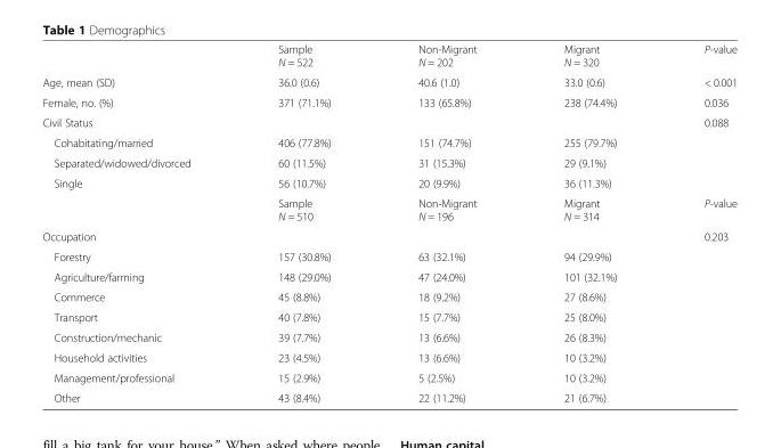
<table><thead><tr><td></td><td>Sample N = 522</td><td>Non-Migrant N = 202</td><td>Migrant N = 320</td><td>P-value</td></tr></thead><tbody><tr><td>Age, mean (SD)</td><td>36.0 (0.6)</td><td>40.6 (1.0)</td><td>33.0 (0.6)</td><td>&lt; 0.001</td></tr><tr><td>Female, no. (%)</td><td>371 (71.1%)</td><td>133 (65.8%)</td><td>238 (74.4%)</td><td>0.036</td></tr><tr><td>Civil Status</td><td></td><td></td><td></td><td>0.088</td></tr><tr><td>Cohabitating/married</td><td>406 (77.8%)</td><td>151 (74.7%)</td><td>255 (79.7%)</td><td></td></tr><tr><td>Separated/widowed/divorced</td><td>60 (11.5%)</td><td>31 (15.3%)</td><td>29 (9.1%)</td><td></td></tr><tr><td rowspan="2">Single</td><td>56 (10.7%)</td><td>20 (9.9%)</td><td>36 (11.3%)</td><td></td></tr><tr><td>Sample N = 510</td><td>Non-Migrant N = 196</td><td>Migrant N = 314</td><td>P-value</td></tr><tr><td>Occupation</td><td></td><td></td><td></td><td>0.203</td></tr><tr><td>Forestry</td><td>157 (30.8%)</td><td>63 (32.1%)</td><td>94 (29.9%)</td><td></td></tr><tr><td>Agriculture/farming</td><td>148 (29.0%)</td><td>47 (24.0%)</td><td>101 (32.1%)</td><td></td></tr><tr><td>Commerce</td><td>45 (8.8%)</td><td>18 (9.2%)</td><td>27 (8.6%)</td><td></td></tr><tr><td>Transport</td><td>40 (7.8%)</td><td>15 (7.7%)</td><td>25 (8.0%)</td><td></td></tr><tr><td>Construction/mechanic</td><td>39 (7.7%)</td><td>13 (6.6%)</td><td>26 (8.3%)</td><td></td></tr><tr><td>Household activities</td><td>23 (4.5%)</td><td>13 (6.6%)</td><td>10 (3.2%)</td><td></td></tr><tr><td>Management/professional</td><td>15 (2.9%)</td><td>5 (2.5%)</td><td>10 (3.2%)</td><td></td></tr><tr><td>Other</td><td>43 (8.4%)</td><td>22 (11.2%)</td><td>21 (6.7%)</td><td></td></tr></tbody></table>